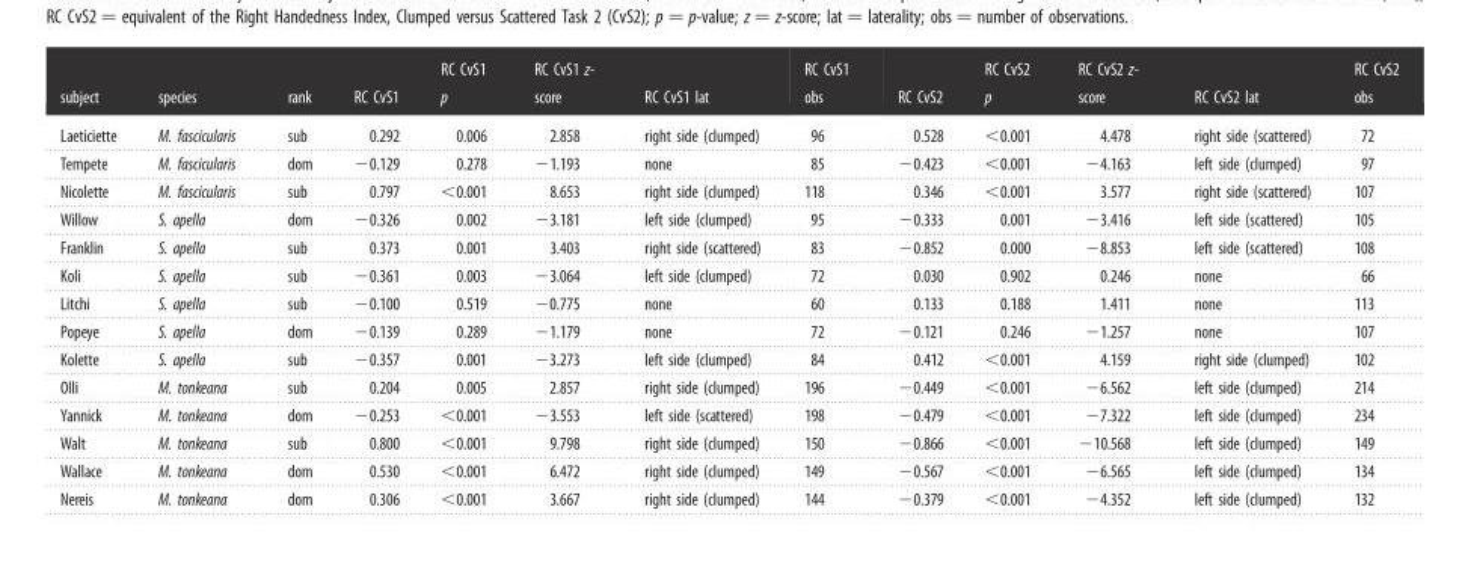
<table><thead><tr><td>subject</td><td>species</td><td>rank</td><td>RC CvS1</td><td>RC CvS1 p</td><td>RC CvS1 z- score</td><td>RC CvS1 lat</td><td>RC CvS1 obs</td><td>RC CvS2</td><td>RC CvS2 p</td><td>RC CvS2 z- score</td><td>RC CvS2 lat</td><td>RC CvS2 obs</td></tr></thead><tbody><tr><td>Laeticiette</td><td>M. fascicularis</td><td>sub</td><td>0.292</td><td>0.006</td><td>2.858</td><td>right side (clumped)</td><td>96</td><td>0.528</td><td>&lt;0.001</td><td>4.478</td><td>right side (scattered)</td><td>72</td></tr><tr><td>Tempete</td><td>M. fascicularis</td><td>dom</td><td>−0.129</td><td>0.278</td><td>−1.193</td><td>none</td><td>85</td><td>−0.423</td><td>&lt;0.001</td><td>−4.163</td><td>left side (clumped)</td><td>97</td></tr><tr><td>Nicolette</td><td>M. fascicularis</td><td>sub</td><td>0.797</td><td>&lt;0.001</td><td>8.653</td><td>right side (clumped)</td><td>118</td><td>0.346</td><td>&lt;0.001</td><td>3.577</td><td>right side (scattered)</td><td>107</td></tr><tr><td>Willow</td><td>S. apella</td><td>dom</td><td>−0.326</td><td>0.002</td><td>−3.181</td><td>left side (clumped)</td><td>95</td><td>−0.333</td><td>0.001</td><td>−3.416</td><td>left side (scattered)</td><td>105</td></tr><tr><td>Franklin</td><td>S. apella</td><td>sub</td><td>0.373</td><td>0.001</td><td>3.403</td><td>right side (scattered)</td><td>83</td><td>−0.852</td><td>0.000</td><td>−8.853</td><td>left side (scattered)</td><td>108</td></tr><tr><td>Koli</td><td>S. apella</td><td>sub</td><td>−0.361</td><td>0.003</td><td>−3.064</td><td>left side (clumped)</td><td>72</td><td>0.030</td><td>0.902</td><td>0.246</td><td>none</td><td>66</td></tr><tr><td>Litchi</td><td>S. apella</td><td>sub</td><td>−0.100</td><td>0.519</td><td>−0.775</td><td>none</td><td>60</td><td>0.133</td><td>0.188</td><td>1.411</td><td>none</td><td>113</td></tr><tr><td>Popeye</td><td>S. apella</td><td>dom</td><td>−0.139</td><td>0.289</td><td>−1.179</td><td>none</td><td>72</td><td>−0.121</td><td>0.246</td><td>−1.257</td><td>none</td><td>107</td></tr><tr><td>Kolette</td><td>S. apella</td><td>sub</td><td>−0.357</td><td>0.001</td><td>−3.273</td><td>left side (clumped)</td><td>84</td><td>0.412</td><td>&lt;0.001</td><td>4.159</td><td>right side (clumped)</td><td>102</td></tr><tr><td>Olli</td><td>M. tonkeana</td><td>sub</td><td>0.204</td><td>0.005</td><td>2.857</td><td>right side (clumped)</td><td>196</td><td>−0.449</td><td>&lt;0.001</td><td>−6.562</td><td>left side (clumped)</td><td>214</td></tr><tr><td>Yannick</td><td>M. tonkeana</td><td>dom</td><td>−0.253</td><td>&lt;0.001</td><td>−3.553</td><td>left side (scattered)</td><td>198</td><td>−0.479</td><td>&lt;0.001</td><td>−7.322</td><td>left side (clumped)</td><td>234</td></tr><tr><td>Walt</td><td>M. tonkeana</td><td>sub</td><td>0.800</td><td>&lt;0.001</td><td>9.798</td><td>right side (clumped)</td><td>150</td><td>−0.866</td><td>&lt;0.001</td><td>−10.568</td><td>left side (clumped)</td><td>149</td></tr><tr><td>Wallace</td><td>M. tonkeana</td><td>dom</td><td>0.530</td><td>&lt;0.001</td><td>6.472</td><td>right side (clumped)</td><td>149</td><td>−0.567</td><td>&lt;0.001</td><td>−6.565</td><td>left side (clumped)</td><td>134</td></tr><tr><td>Nereis</td><td>M. tonkeana</td><td>dom</td><td>0.306</td><td>&lt;0.001</td><td>3.667</td><td>right side (clumped)</td><td>144</td><td>−0.379</td><td>&lt;0.001</td><td>−4.352</td><td>left side (clumped)</td><td>132</td></tr></tbody></table>